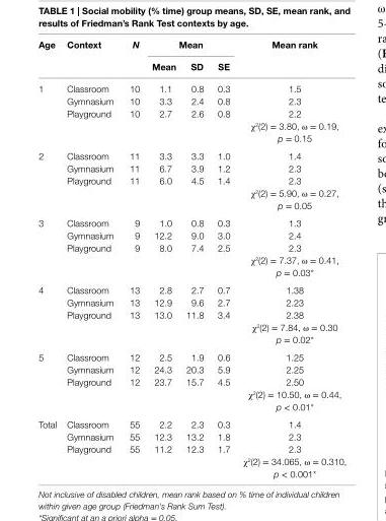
<table><thead><tr><td rowspan="2">age</td><td rowspan="2">context</td><td rowspan="2">N</td><td colspan="3">Mean</td><td rowspan="2">Mean rank</td></tr><tr><td>Mean</td><td>sD</td><td>se</td></tr></thead><tbody><tr><td rowspan="4">1</td><td>Classroom</td><td>10</td><td>1.1</td><td>0.8</td><td>0.3</td><td>1.5</td></tr><tr><td>Gymnasium</td><td>10</td><td>3.3</td><td>2.4</td><td>0.8</td><td>2.3</td></tr><tr><td>Playground</td><td>10</td><td>2.7</td><td>2.6</td><td>0.8</td><td>2.2</td></tr><tr><td></td><td></td><td></td><td></td><td></td><td>χ<sup>2</sup>(2) = 3.80, ω = 0.19, p = 0.15</td></tr><tr><td rowspan="4">2</td><td>Classroom</td><td>11</td><td>3.3</td><td>3.3</td><td>1.0</td><td>1.4</td></tr><tr><td>Gymnasium</td><td>11</td><td>6.7</td><td>3.9</td><td>1.2</td><td>2.3</td></tr><tr><td>Playground</td><td>11</td><td>6.0</td><td>4.5</td><td>1.4</td><td>2.3</td></tr><tr><td></td><td></td><td></td><td></td><td></td><td>χ<sup>2</sup>(2) = 5.90, ω = 0.27, p = 0.05</td></tr><tr><td rowspan="4">3</td><td>Classroom</td><td>9</td><td>1.0</td><td>0.8</td><td>0.3</td><td>1.3</td></tr><tr><td>Gymnasium</td><td>9</td><td>12.2</td><td>9.0</td><td>3.0</td><td>2.4</td></tr><tr><td>Playground</td><td>9</td><td>8.0</td><td>7.4</td><td>2.5</td><td>2.3</td></tr><tr><td></td><td></td><td></td><td></td><td></td><td>χ<sup>2</sup>(2) = 7.37, ω = 0.41, p = 0.03*</td></tr><tr><td rowspan="4">4</td><td>Classroom</td><td>13</td><td>2.8</td><td>2.7</td><td>0.7</td><td>1.38</td></tr><tr><td>Gymnasium</td><td>13</td><td>12.9</td><td>9.6</td><td>2.7</td><td>2.23</td></tr><tr><td>Playground</td><td>13</td><td>13.0</td><td>11.8</td><td>3.4</td><td>2.38</td></tr><tr><td></td><td></td><td></td><td></td><td></td><td>χ<sup>2</sup>(2) = 7.84, ω = 0.30 p = 0.02*</td></tr><tr><td rowspan="4">5</td><td>Classroom</td><td>12</td><td>2.5</td><td>1.9</td><td>0.6</td><td>1.25</td></tr><tr><td>Gymnasium</td><td>12</td><td>24.3</td><td>20.3</td><td>5.9</td><td>2.25</td></tr><tr><td>Playground</td><td>12</td><td>23.7</td><td>15.7</td><td>4.5</td><td>2.50</td></tr><tr><td></td><td></td><td></td><td></td><td></td><td>χ<sup>2</sup>(2) = 10.50, ω = 0.44, p &lt; 0.01*</td></tr><tr><td rowspan="4">Total</td><td>Classroom</td><td>55</td><td>2.2</td><td>2.3</td><td>0.3</td><td>1.4</td></tr><tr><td>Gymnasium</td><td>55</td><td>12.3</td><td>13.2</td><td>1.8</td><td>2.3</td></tr><tr><td>Playground</td><td>55</td><td>11.2</td><td>12.3</td><td>1.7</td><td>2.3</td></tr><tr><td></td><td></td><td></td><td></td><td></td><td>χ<sup>2</sup>(2) = 34.065, ω = 0.310, p &lt; 0.001*</td></tr></tbody></table>